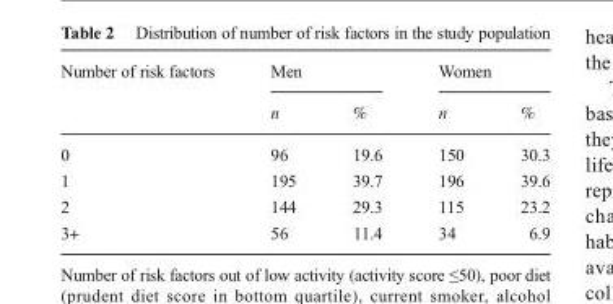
<table><thead><tr><td rowspan="2">Number of risk factors</td><td colspan="2">Men</td><td colspan="2">Women</td></tr><tr><td>n</td><td>%</td><td>n</td><td>%</td></tr></thead><tbody><tr><td>0</td><td>96</td><td>19.6</td><td>150</td><td>30.3</td></tr><tr><td>1</td><td>195</td><td>39.7</td><td>196</td><td>39.6</td></tr><tr><td>2</td><td>144</td><td>29.3</td><td>115</td><td>23.2</td></tr><tr><td>3+</td><td>56</td><td>11.4</td><td>34</td><td>6.9</td></tr></tbody></table>